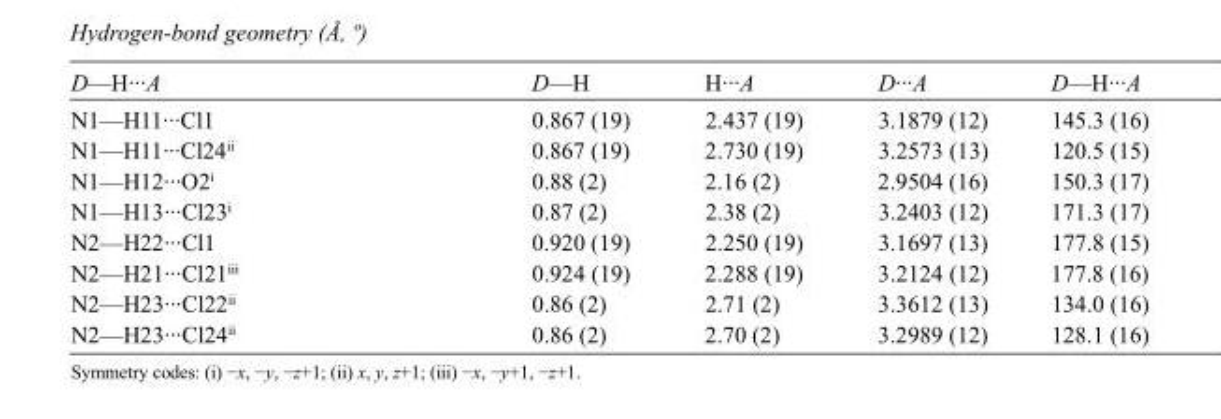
<table><tbody><tr><td>D—H···A</td><td>D—H</td><td>H···A</td><td>D···A</td><td>D—H···A</td></tr><tr><td>N1—H11···Cl1</td><td>0.867 (19)</td><td>2.437 (19)</td><td>3.1879 (12)</td><td>145.3 (16)</td></tr><tr><td>N1—H11···Cl24<sup>ii</sup></td><td>0.867 (19)</td><td>2.730 (19)</td><td>3.2573 (13)</td><td>120.5 (15)</td></tr><tr><td>N1—H12···O2<sup>i</sup></td><td>0.88 (2)</td><td>2.16 (2)</td><td>2.9504 (16)</td><td>150.3 (17)</td></tr><tr><td>N1—H13···Cl23<sup>i</sup></td><td>0.87 (2)</td><td>2.38 (2)</td><td>3.2403 (12)</td><td>171.3 (17)</td></tr><tr><td>N2—H22···Cl1</td><td>0.920 (19)</td><td>2.250 (19)</td><td>3.1697 (13)</td><td>177.8 (15)</td></tr><tr><td>N2—H21···Cl21<sup>iii</sup></td><td>0.924 (19)</td><td>2.288 (19)</td><td>3.2124 (12)</td><td>177.8 (16)</td></tr><tr><td>N2—H23···Cl22<sup>ii</sup></td><td>0.86 (2)</td><td>2.71 (2)</td><td>3.3612 (13)</td><td>134.0 (16)</td></tr><tr><td>N2—H23···Cl24<sup>ii</sup></td><td>0.86 (2)</td><td>2.70 (2)</td><td>3.2989 (12)</td><td>128.1 (16)</td></tr></tbody></table>